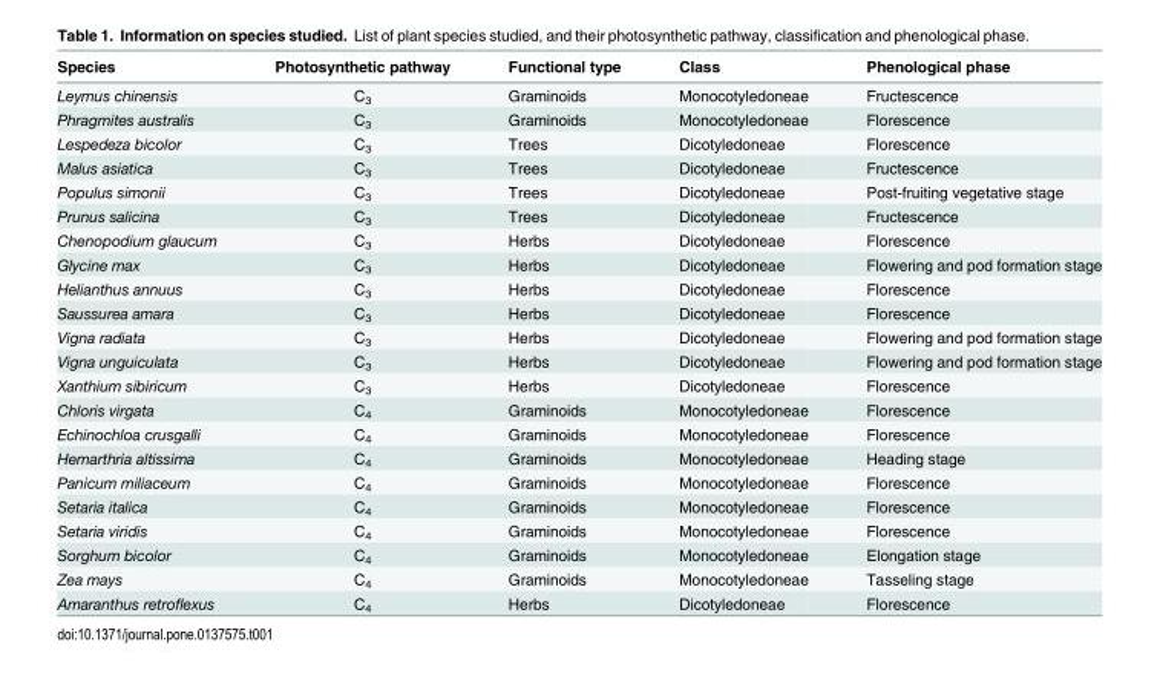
<table><thead><tr><td>Species</td><td>Photosynthetic pathway</td><td>Functional type</td><td>Class</td><td>Phenological phase</td></tr></thead><tbody><tr><td>Leymus chinensis</td><td>C<sub>3</sub></td><td>Graminoids</td><td>Monocotyledoneae</td><td>Fructescence</td></tr><tr><td>Phragmites australis</td><td>C<sub>3</sub></td><td>Graminoids</td><td>Monocotyledoneae</td><td>Florescence</td></tr><tr><td>Lespedeza bicolor</td><td>C<sub>3</sub></td><td>Trees</td><td>Dicotyledoneae</td><td>Florescence</td></tr><tr><td>Malus asiatica</td><td>C<sub>3</sub></td><td>Trees</td><td>Dicotyledoneae</td><td>Fructescence</td></tr><tr><td>Populus simonii</td><td>C<sub>3</sub></td><td>Trees</td><td>Dicotyledoneae</td><td>Post-fruiting vegetative stage</td></tr><tr><td>Prunus salicina</td><td>C<sub>3</sub></td><td>Trees</td><td>Dicotyledoneae</td><td>Fructescence</td></tr><tr><td>Chenopodium glaucum</td><td>C<sub>3</sub></td><td>Herbs</td><td>Dicotyledoneae</td><td>Florescence</td></tr><tr><td>Glycine max</td><td>C<sub>3</sub></td><td>Herbs</td><td>Dicotyledoneae</td><td>Flowering and pod formation stage</td></tr><tr><td>Helianthus annuus</td><td>C<sub>3</sub></td><td>Herbs</td><td>Dicotyledoneae</td><td>Florescence</td></tr><tr><td>Saussurea amara</td><td>C<sub>3</sub></td><td>Herbs</td><td>Dicotyledoneae</td><td>Florescence</td></tr><tr><td>Vigna radiata</td><td>C<sub>3</sub></td><td>Herbs</td><td>Dicotyledoneae</td><td>Flowering and pod formation stage</td></tr><tr><td>Vigna unguiculata</td><td>C<sub>3</sub></td><td>Herbs</td><td>Dicotyledoneae</td><td>Flowering and pod formation stage</td></tr><tr><td>Xanthium sibiricum</td><td>C<sub>3</sub></td><td>Herbs</td><td>Dicotyledoneae</td><td>Florescence</td></tr><tr><td>Chloris virgata</td><td>C<sub>4</sub></td><td>Graminoids</td><td>Monocotyledoneae</td><td>Florescence</td></tr><tr><td>Echinochloa crusgalli</td><td>C<sub>4</sub></td><td>Graminoids</td><td>Monocotyledoneae</td><td>Florescence</td></tr><tr><td>Hemarthria altissima</td><td>C<sub>4</sub></td><td>Graminoids</td><td>Monocotyledoneae</td><td>Heading stage</td></tr><tr><td>Panicum miliaceum</td><td>C<sub>4</sub></td><td>Graminoids</td><td>Monocotyledoneae</td><td>Florescence</td></tr><tr><td>Setaria italica</td><td>C<sub>4</sub></td><td>Graminoids</td><td>Monocotyledoneae</td><td>Florescence</td></tr><tr><td>Setaria viridis</td><td>C<sub>4</sub></td><td>Graminoids</td><td>Monocotyledoneae</td><td>Florescence</td></tr><tr><td>Sorghum bicolor</td><td>C<sub>4</sub></td><td>Graminoids</td><td>Monocotyledoneae</td><td>Elongation stage</td></tr><tr><td>Zea mays</td><td>C<sub>4</sub></td><td>Graminoids</td><td>Monocotyledoneae</td><td>Tasseling stage</td></tr><tr><td>Amaranthus retroflexus</td><td>C<sub>4</sub></td><td>Herbs</td><td>Dicotyledoneae</td><td>Florescence</td></tr></tbody></table>